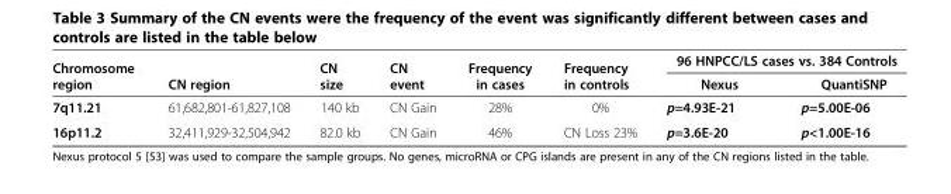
<table><thead><tr><td rowspan="2">Chromosome region</td><td rowspan="2">CN region</td><td rowspan="2">CN size</td><td rowspan="2">CN event</td><td rowspan="2">Frequency in cases</td><td rowspan="2">Frequency in controls</td><td colspan="2">96 HNPCC/LS cases vs. 384 Controls</td></tr><tr><td>Nexus</td><td>QuantiSNP</td></tr></thead><tbody><tr><td>7q11.21</td><td>61,682,801-61,827,108</td><td>140 kb</td><td>CN Gain</td><td>28%</td><td>0%</td><td>p=4.93E-21</td><td>p=5.00E-06</td></tr><tr><td>16p11.2</td><td>32,411,929-32,504,942</td><td>82.0 kb</td><td>CN Gain</td><td>46%</td><td>CN Loss 23%</td><td>p=3.6E-20</td><td>p&lt;1.00E-16</td></tr></tbody></table>